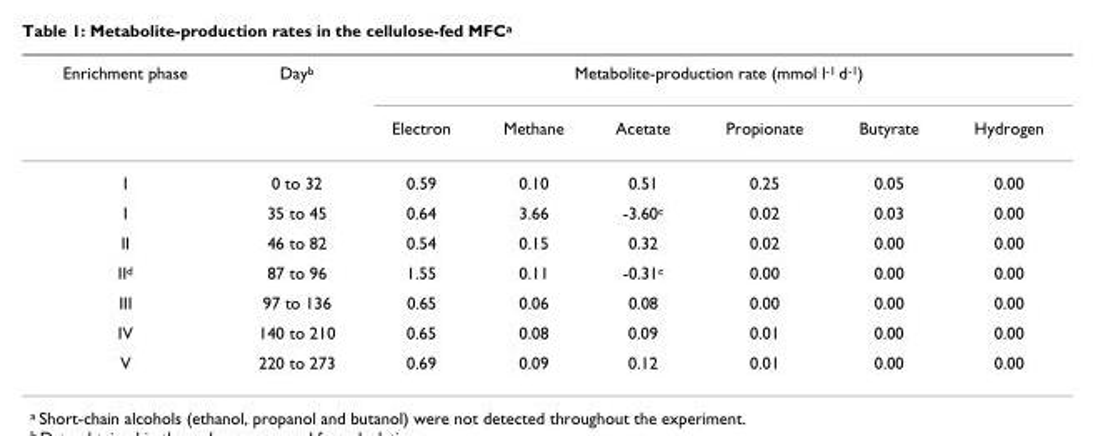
<table><thead><tr><td rowspan="2">Enrichment phase</td><td rowspan="2">Day<sup>b</sup></td><td colspan="6">Metabolite-production rate (mmol l<sup>-1</sup> d<sup>-1</sup>)</td></tr><tr><td>Electron</td><td>Methane</td><td>Acetate</td><td>Propionate</td><td>Butyrate</td><td>Hydrogen</td></tr></thead><tbody><tr><td>I</td><td>0 to 32</td><td>0.59</td><td>0.10</td><td>0.51</td><td>0.25</td><td>0.05</td><td>0.00</td></tr><tr><td>I</td><td>35 to 45</td><td>0.64</td><td>3.66</td><td>-3.60<sup>c</sup></td><td>0.02</td><td>0.03</td><td>0.00</td></tr><tr><td>II</td><td>46 to 82</td><td>0.54</td><td>0.15</td><td>0.32</td><td>0.02</td><td>0.00</td><td>0.00</td></tr><tr><td>II<sup>d</sup></td><td>87 to 96</td><td>1.55</td><td>0.11</td><td>-0.31<sup>c</sup></td><td>0.00</td><td>0.00</td><td>0.00</td></tr><tr><td>III</td><td>97 to 136</td><td>0.65</td><td>0.06</td><td>0.08</td><td>0.00</td><td>0.00</td><td>0.00</td></tr><tr><td>IV</td><td>140 to 210</td><td>0.65</td><td>0.08</td><td>0.09</td><td>0.01</td><td>0.00</td><td>0.00</td></tr><tr><td>V</td><td>220 to 273</td><td>0.69</td><td>0.09</td><td>0.12</td><td>0.01</td><td>0.00</td><td>0.00</td></tr></tbody></table>